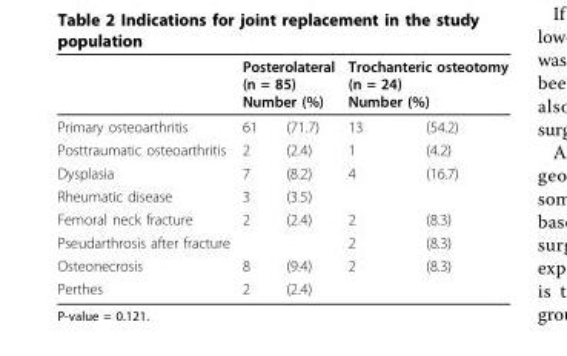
<table><thead><tr><td rowspan="2">Primary osteoarthritis</td><td colspan="2">Posterolateral (n = 85) Number (%)</td><td colspan="2">Trochanteric osteotomy (n = 24) Number (%)</td></tr><tr><td>61</td><td>(71.7)</td><td>13</td><td>(54.2)</td></tr></thead><tbody><tr><td>Posttraumatic osteoarthritis</td><td>2</td><td>(2.4)</td><td>1</td><td>(4.2)</td></tr><tr><td>Dysplasia</td><td>7</td><td>(8.2)</td><td>4</td><td>(16.7)</td></tr><tr><td>Rheumatic disease</td><td>3</td><td>(3.5)</td><td></td><td></td></tr><tr><td>Femoral neck fracture</td><td>2</td><td>(2.4)</td><td>2</td><td>(8.3)</td></tr><tr><td>Pseudarthrosis after fracture</td><td></td><td></td><td>2</td><td>(8.3)</td></tr><tr><td>Osteonecrosis</td><td>8</td><td>(9.4)</td><td>2</td><td>(8.3)</td></tr><tr><td>Perthes</td><td>2</td><td>(2.4)</td><td></td><td></td></tr></tbody></table>